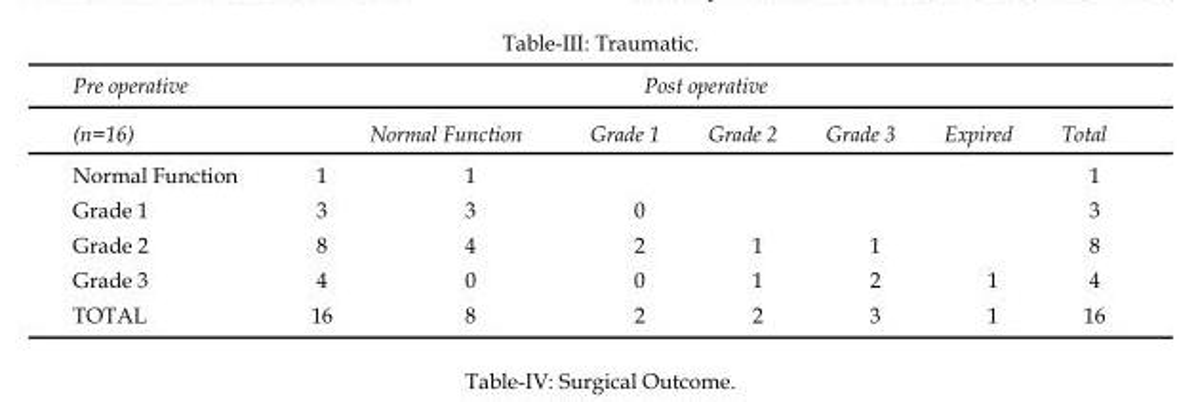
<table><thead><tr><td rowspan="2" colspan="2">Pre operative (n=16)</td><td colspan="5">Post operative</td><td rowspan="3">Total 1</td></tr><tr><td rowspan="2">Normal Function 1</td><td rowspan="2">Grade 1</td><td rowspan="2">Grade 2</td><td rowspan="2">Grade 3</td><td rowspan="2">Expired</td></tr><tr><td>Normal Function</td><td>1</td></tr></thead><tbody><tr><td>Grade 1</td><td>3</td><td>3</td><td>0</td><td></td><td></td><td></td><td>3</td></tr><tr><td>Grade 2</td><td>8</td><td>4</td><td>2</td><td>1</td><td>1</td><td></td><td>8</td></tr><tr><td>Grade 3</td><td>4</td><td>0</td><td>0</td><td>1</td><td>2</td><td>1</td><td>4</td></tr><tr><td>TOTAL</td><td>16</td><td>8</td><td>2</td><td>2</td><td>3</td><td>1</td><td>16</td></tr></tbody></table>